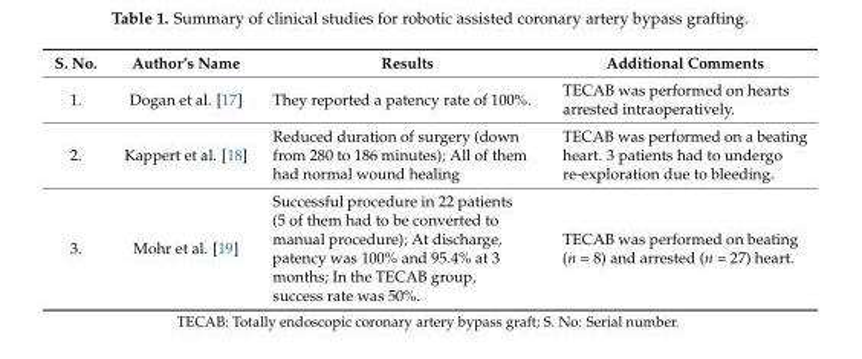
<table><thead><tr><td>S. No.</td><td>Author’s Name</td><td>Results</td><td>Additional Comments</td></tr></thead><tbody><tr><td>1.</td><td>Dogan et al. [17]</td><td>They reported a patency rate of 100%.</td><td>TECAB was performed on hearts arrested intraoperatively.</td></tr><tr><td>2.</td><td>Kappert et al. [18]</td><td>Reduced duration of surgery (down from 280 to 186 minutes); All of them had normal wound healing</td><td>TECAB was performed on a beating heart. 3 patients had to undergo re-exploration due to bleeding.</td></tr><tr><td>3.</td><td>Mohr et al. [19]</td><td>Successful procedure in 22 patients (5 of them had to be converted to manual procedure); At discharge, patency was 100% and 95.4% at 3 months; In the TECAB group, success rate was 50%.</td><td>TECAB was performed on beating (n = 8) and arrested (n = 27) heart.</td></tr></tbody></table>